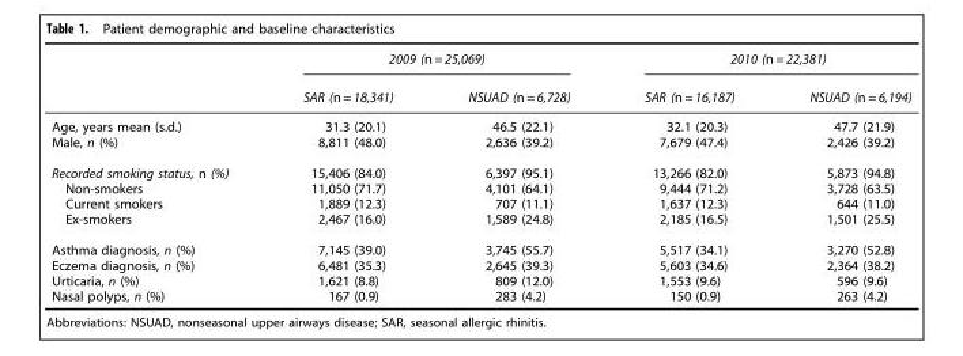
<table><thead><tr><td rowspan="2"></td><td colspan="2">2009 (n = 25,069)</td><td colspan="2">2010 (n = 22,381)</td></tr><tr><td>SAR (n = 18,341)</td><td>NSUAD (n = 6,728)</td><td>SAR (n = 16,187)</td><td>NSUAD (n = 6,194)</td></tr></thead><tbody><tr><td>Age, years mean (s.d.)</td><td>31.3 (20.1)</td><td>46.5 (22.1)</td><td>32.1 (20.3)</td><td>47.7 (21.9)</td></tr><tr><td>Male, n (%)</td><td>8,811 (48.0)</td><td>2,636 (39.2)</td><td>7,679 (47.4)</td><td>2,426 (39.2)</td></tr><tr><td>Recorded smoking status, n (%)</td><td>15,406 (84.0)</td><td>6,397 (95.1)</td><td>13,266 (82.0)</td><td>5,873 (94.8)</td></tr><tr><td>Non-smokers</td><td>11,050 (71.7)</td><td>4,101 (64.1)</td><td>9,444 (71.2)</td><td>3,728 (63.5)</td></tr><tr><td>Current smokers</td><td>1,889 (12.3)</td><td>707 (11.1)</td><td>1,637 (12.3)</td><td>644 (11.0)</td></tr><tr><td>Ex-smokers</td><td>2,467 (16.0)</td><td>1,589 (24.8)</td><td>2,185 (16.5)</td><td>1,501 (25.5)</td></tr><tr><td>Asthma diagnosis, n (%)</td><td>7,145 (39.0)</td><td>3,745 (55.7)</td><td>5,517 (34.1)</td><td>3,270 (52.8)</td></tr><tr><td>Eczema diagnosis, n (%)</td><td>6,481 (35.3)</td><td>2,645 (39.3)</td><td>5,603 (34.6)</td><td>2,364 (38.2)</td></tr><tr><td>Urticaria, n (%)</td><td>1,621 (8.8)</td><td>809 (12.0)</td><td>1,553 (9.6)</td><td>596 (9.6)</td></tr><tr><td>Nasal polyps, n (%)</td><td>167 (0.9)</td><td>283 (4.2)</td><td>150 (0.9)</td><td>263 (4.2)</td></tr></tbody></table>